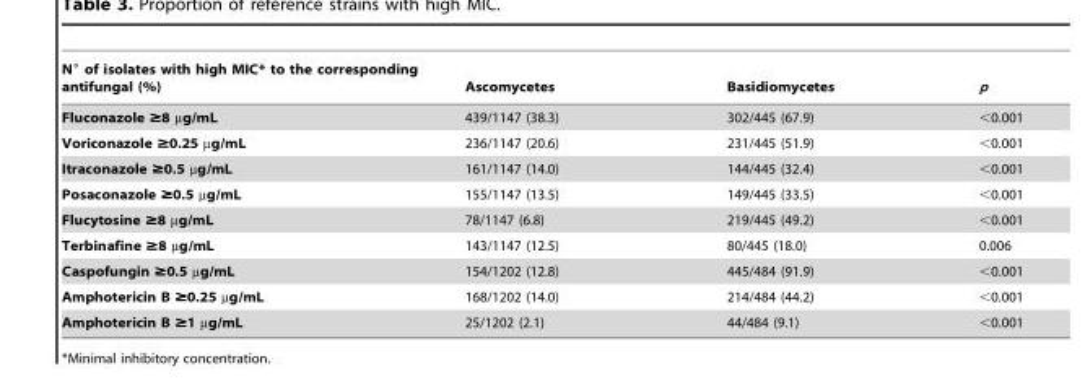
<table><thead><tr><td>N° of isolates with high MIC* to the corresponding antifungal (%)</td><td>Ascomycetes</td><td>Basidiomycetes</td><td>p</td></tr></thead><tbody><tr><td>Fluconazole ≥8 µg/mL</td><td>439/1147 (38.3)</td><td>302/445 (67.9)</td><td>&lt;0.001</td></tr><tr><td>Voriconazole ≥0.25 µg/mL</td><td>236/1147 (20.6)</td><td>231/445 (51.9)</td><td>&lt;0.001</td></tr><tr><td>Itraconazole ≥0.5 µg/mL</td><td>161/1147 (14.0)</td><td>144/445 (32.4)</td><td>&lt;0.001</td></tr><tr><td>Posaconazole ≥0.5 µg/mL</td><td>155/1147 (13.5)</td><td>149/445 (33.5)</td><td>&lt;0.001</td></tr><tr><td>Flucytosine ≥8 µg/mL</td><td>78/1147 (6.8)</td><td>219/445 (49.2)</td><td>&lt;0.001</td></tr><tr><td>Terbinafine ≥8 µg/mL</td><td>143/1147 (12.5)</td><td>80/445 (18.0)</td><td>0.006</td></tr><tr><td>Caspofungin ≥0.5 µg/mL</td><td>154/1202 (12.8)</td><td>445/484 (91.9)</td><td>&lt;0.001</td></tr><tr><td>Amphotericin B ≥0.25 µg/mL</td><td>168/1202 (14.0)</td><td>214/484 (44.2)</td><td>&lt;0.001</td></tr><tr><td>Amphotericin B ≥1 µg/mL</td><td>25/1202 (2.1)</td><td>44/484 (9.1)</td><td>&lt;0.001</td></tr></tbody></table>